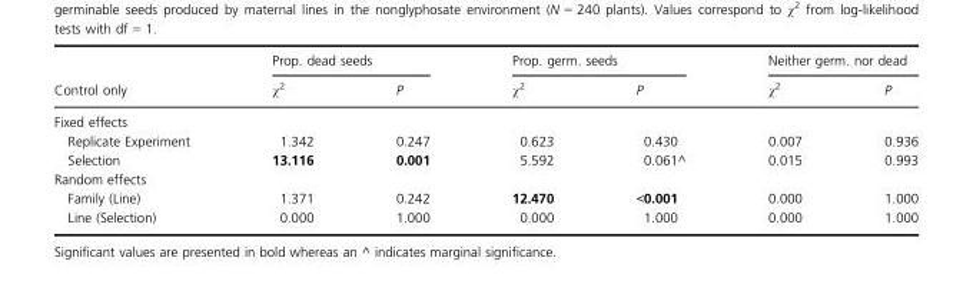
<table><thead><tr><td rowspan="2">Control only</td><td colspan="2">Prop. dead seeds</td><td colspan="2">Prop. germ. seeds</td><td colspan="2">Neither germ. nor dead</td></tr><tr><td>χ<sup>2</sup></td><td>P</td><td>χ<sup>2</sup></td><td>P</td><td>χ<sup>2</sup></td><td>P</td></tr></thead><tbody><tr><td colspan="7">Fixed effects</td></tr><tr><td>Replicate Experiment</td><td>1.342</td><td>0.247</td><td>0.623</td><td>0.430</td><td>0.007</td><td>0.936</td></tr><tr><td>Selection</td><td>13.116</td><td>0.001</td><td>5.592</td><td>0.061^</td><td>0.015</td><td>0.993</td></tr><tr><td colspan="7">Random effects</td></tr><tr><td>Family (Line)</td><td>1.371</td><td>0.242</td><td>12.470</td><td>&lt;0.001</td><td>0.000</td><td>1.000</td></tr><tr><td>Line (Selection)</td><td>0.000</td><td>1.000</td><td>0.000</td><td>1.000</td><td>0.000</td><td>1.000</td></tr></tbody></table>